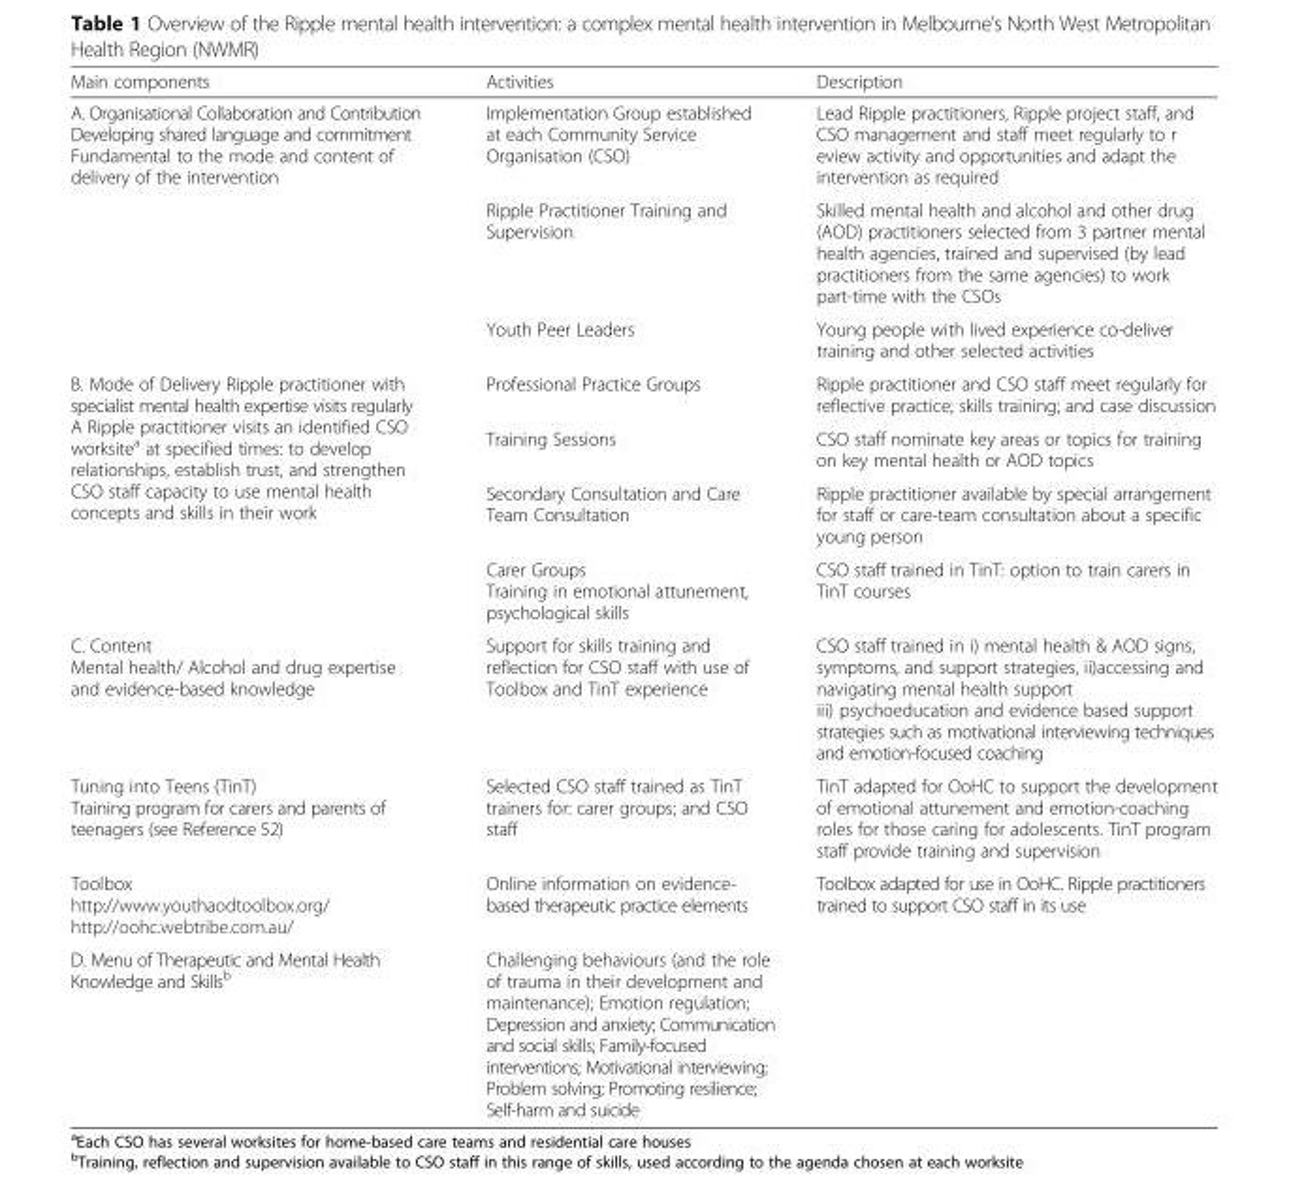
<table><thead><tr><td>Main components</td><td>Activities</td><td>Description</td></tr></thead><tbody><tr><td rowspan="3">A. Organisational Collaboration and Contribution Developing shared language and commitment Fundamental to the mode and content of delivery of the intervention</td><td>Implementation Group established at each Community Service Organisation (CSO)</td><td>Lead Ripple practitioners, Ripple project staff, and CSO management and staff meet regularly to r eview activity and opportunities and adapt the intervention as required</td></tr><tr><td>Ripple Practitioner Training and Supervision</td><td>Skilled mental health and alcohol and other drug (AOD) practitioners selected from 3 partner mental health agencies, trained and supervised (by lead practitioners from the same agencies) to work part-time with the CSOs</td></tr><tr><td>Youth Peer Leaders</td><td>Young people with lived experience co-deliver training and other selected activities</td></tr><tr><td rowspan="4">B. Mode of Delivery Ripple practitioner with specialist mental health expertise visits regularly A Ripple practitioner visits an identified CSO worksite<sup>a</sup> at specified times: to develop relationships, establish trust, and strengthen CSO staff capacity to use mental health concepts and skills in their work</td><td>Professional Practice Groups</td><td>Ripple practitioner and CSO staff meet regularly for reflective practice; skills training; and case discussion</td></tr><tr><td>Training Sessions</td><td>CSO staff nominate key areas or topics for training on key mental health or AOD topics</td></tr><tr><td>Secondary Consultation and Care Team Consultation</td><td>Ripple practitioner available by special arrangement for staff or care-team consultation about a specific young person</td></tr><tr><td>Carer Groups Training in emotional attunement, psychological skills</td><td>CSO staff trained in TinT: option to train carers in TinT courses</td></tr><tr><td>C. Content Mental health/ Alcohol and drug expertise and evidence-based knowledge</td><td>Support for skills training and reflection for CSO staff with use of Toolbox and TinT experience</td><td>CSO staff trained in i) mental health &amp; AOD signs, symptoms, and support strategies, ii)accessing and navigating mental health support iii) psychoeducation and evidence based support strategies such as motivational interviewing techniques and emotion-focused coaching</td></tr><tr><td>Tuning into Teens (TinT) Training program for carers and parents of teenagers (see Reference 52)</td><td>Selected CSO staff trained as TinT trainers for: carer groups; and CSO staff</td><td>TinT adapted for OoHC to support the development of emotional attunement and emotion-coaching roles for those caring for adolescents. TinT program staff provide training and supervision</td></tr><tr><td>Toolbox http://www.youthaodtoolbox.org/ http://oohc.webtribe.com.au/</td><td>Online information on evidence- based therapeutic practice elements</td><td>Toolbox adapted for use in OoHC. Ripple practitioners trained to support CSO staff in its use</td></tr><tr><td>D. Menu of Therapeutic and Mental Health Knowledge and Skills<sup>b</sup></td><td colspan="2">Challenging behaviours (and the role of trauma in their development and maintenance); Emotion regulation; Depression and anxiety; Communication and social skills; Family-focused interventions; Motivational interviewing; Problem solving; Promoting resilience; Self-harm and suicide</td></tr></tbody></table>